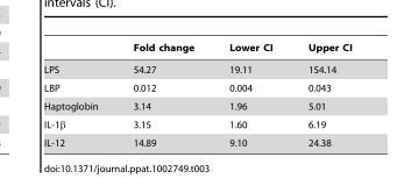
<table><thead><tr><td></td><td>Fold change</td><td>Lower CI</td><td>Upper CI</td></tr></thead><tbody><tr><td>LPS</td><td>54.27</td><td>19.11</td><td>154.14</td></tr><tr><td>LBP</td><td>0.012</td><td>0.004</td><td>0.043</td></tr><tr><td>Haptoglobin</td><td>3.14</td><td>1.96</td><td>5.01</td></tr><tr><td>IL-1β</td><td>3.15</td><td>1.60</td><td>6.19</td></tr><tr><td>IL-12</td><td>14.89</td><td>9.10</td><td>24.38</td></tr></tbody></table>